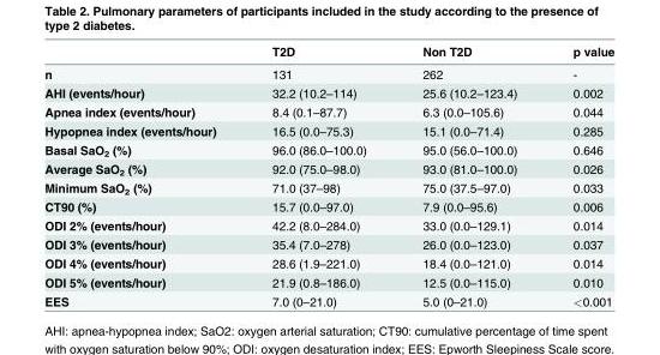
<table><thead><tr><td></td><td>T2D</td><td>Non T2D</td><td>p value</td></tr></thead><tbody><tr><td>n</td><td>131</td><td>262</td><td>-</td></tr><tr><td>AHI (events/hour)</td><td>32.2 (10.2–114)</td><td>25.6 (10.2–123.4)</td><td>0.002</td></tr><tr><td>Apnea index (events/hour)</td><td>8.4 (0.1–87.7)</td><td>6.3 (0.0–105.6)</td><td>0.044</td></tr><tr><td>Hypopnea index (events/hour)</td><td>16.5 (0.0–75.3)</td><td>15.1 (0.0–71.4)</td><td>0.285</td></tr><tr><td>Basal SaO<sub>2</sub> (%)</td><td>96.0 (86.0–100.0)</td><td>95.0 (56.0–100.0)</td><td>0.646</td></tr><tr><td>Average SaO<sub>2</sub> (%)</td><td>92.0 (75.0–98.0)</td><td>93.0 (81.0–100.0)</td><td>0.026</td></tr><tr><td>Minimum SaO<sub>2</sub> (%)</td><td>71.0 (37–98)</td><td>75.0 (37.5–97.0)</td><td>0.033</td></tr><tr><td>CT90 (%)</td><td>15.7 (0.0–97.0)</td><td>7.9 (0.0–95.6)</td><td>0.006</td></tr><tr><td>ODI 2% (events/hour)</td><td>42.2 (8.0–284.0)</td><td>33.0 (0.0–129.1)</td><td>0.014</td></tr><tr><td>ODI 3% (events/hour)</td><td>35.4 (7.0–278)</td><td>26.0 (0.0–123.0)</td><td>0.037</td></tr><tr><td>ODI 4% (events/hour)</td><td>28.6 (1.9–221.0)</td><td>18.4 (0.0–121.0)</td><td>0.014</td></tr><tr><td>ODI 5% (events/hour)</td><td>21.9 (0.8–186.0)</td><td>12.5 (0.0–115.0)</td><td>0.010</td></tr><tr><td>EES</td><td>7.0 (0–21.0)</td><td>5.0 (0–21.0)</td><td>&lt;0.001</td></tr></tbody></table>